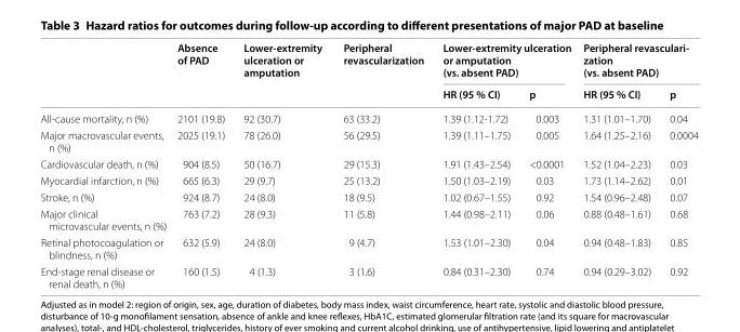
<table><thead><tr><td rowspan="2"></td><td rowspan="2">Absence of PAD</td><td rowspan="2">Lower‑extremity ulceration or amputation</td><td rowspan="2">Peripheral revascularization</td><td colspan="2">Lower‑extremity ulceration or amputation (vs. absent PAD)</td><td colspan="2">Peripheral revasculari‑ zation (vs. absent PAD)</td></tr><tr><td>HR (95 % CI)</td><td>p</td><td>HR (95 % CI)</td><td>p</td></tr></thead><tbody><tr><td>All-cause mortality, n (%)</td><td>2101 (19.8)</td><td>92 (30.7)</td><td>63 (33.2)</td><td>1.39 (1.12-1.72)</td><td>0.003</td><td>1.31 (1.01–1.70)</td><td>0.04</td></tr><tr><td>Major macrovascular events, n (%)</td><td>2025 (19.1)</td><td>78 (26.0)</td><td>56 (29.5)</td><td>1.39 (1.11–1.75)</td><td>0.005</td><td>1.64 (1.25–2.16)</td><td>0.0004</td></tr><tr><td>Cardiovascular death, n (%)</td><td>904 (8.5)</td><td>50 (16.7)</td><td>29 (15.3)</td><td>1.91 (1.43–2.54)</td><td>&lt;0.0001</td><td>1.52 (1.04–2.23)</td><td>0.03</td></tr><tr><td>Myocardial infarction, n (%)</td><td>665 (6.3)</td><td>29 (9.7)</td><td>25 (13.2)</td><td>1.50 (1.03–2.19)</td><td>0.03</td><td>1.73 (1.14–2.62)</td><td>0.01</td></tr><tr><td>Stroke, n (%)</td><td>924 (8.7)</td><td>24 (8.0)</td><td>18 (9.5)</td><td>1.02 (0.67–1.55)</td><td>0.92</td><td>1.54 (0.96–2.48)</td><td>0.07</td></tr><tr><td>Major clinical microvascular events, n (%)</td><td>763 (7.2)</td><td>28 (9.3)</td><td>11 (5.8)</td><td>1.44 (0.98–2.11)</td><td>0.06</td><td>0.88 (0.48–1.61)</td><td>0.68</td></tr><tr><td>Retinal photocoagulation or blindness, n (%)</td><td>632 (5.9)</td><td>24 (8.0)</td><td>9 (4.7)</td><td>1.53 (1.01–2.30)</td><td>0.04</td><td>0.94 (0.48–1.83)</td><td>0.85</td></tr><tr><td>End-stage renal disease or renal death, n (%)</td><td>160 (1.5)</td><td>4 (1.3)</td><td>3 (1.6)</td><td>0.84 (0.31–2.30)</td><td>0.74</td><td>0.94 (0.29–3.02)</td><td>0.92</td></tr></tbody></table>